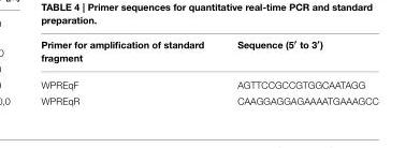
<table><thead><tr><td>Primer for amplification of standard fragment</td><td>Sequence (5′ to 3′)</td></tr></thead><tbody><tr><td>WPREqF</td><td>AGTTCCGCCGTGGCAATAGG</td></tr><tr><td>WPREqR</td><td>CAAGGAGGAGAAAATGAAAGCC</td></tr></tbody></table>